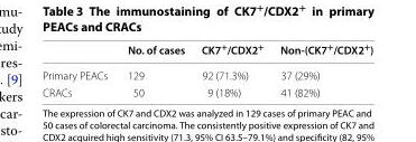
<table><thead><tr><td></td><td>No. of cases</td><td>CK7<sup>+</sup>/CDX2<sup>+</sup></td><td>Non-(CK7<sup>+</sup>/CDX2<sup>+</sup>)</td></tr></thead><tbody><tr><td>Primary PEACs</td><td>129</td><td>92 (71.3%)</td><td>37 (29%)</td></tr><tr><td>CRACs</td><td>50</td><td>9 (18%)</td><td>41 (82%)</td></tr></tbody></table>